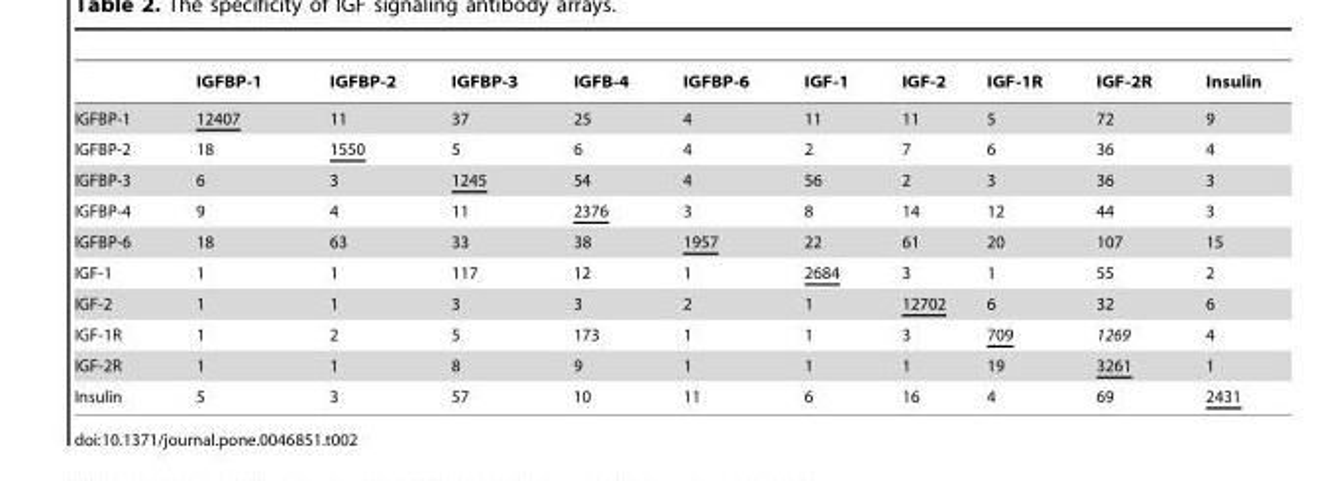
<table><thead><tr><td></td><td>IGFBP-1</td><td>IGFBP-2</td><td>IGFBP-3</td><td>IGFB-4</td><td>IGFBP-6</td><td>IGF-1</td><td>IGF-2</td><td>IGF-1R</td><td>IGF-2R</td><td>Insulin</td></tr></thead><tbody><tr><td>IGFBP-1</td><td>12407</td><td>11</td><td>37</td><td>25</td><td>4</td><td>11</td><td>11</td><td>5</td><td>72</td><td>9</td></tr><tr><td>IGFBP-2</td><td>18</td><td>1550</td><td>5</td><td>6</td><td>4</td><td>2</td><td>7</td><td>6</td><td>36</td><td>4</td></tr><tr><td>IGFBP-3</td><td>6</td><td>3</td><td>1245</td><td>54</td><td>4</td><td>56</td><td>2</td><td>3</td><td>36</td><td>3</td></tr><tr><td>IGFBP-4</td><td>9</td><td>4</td><td>11</td><td>2376</td><td>3</td><td>8</td><td>14</td><td>12</td><td>44</td><td>3</td></tr><tr><td>IGFBP-6</td><td>18</td><td>63</td><td>33</td><td>38</td><td>1957</td><td>22</td><td>61</td><td>20</td><td>107</td><td>15</td></tr><tr><td>IGF-1</td><td>1</td><td>1</td><td>117</td><td>12</td><td>1</td><td>2684</td><td>3</td><td>1</td><td>55</td><td>2</td></tr><tr><td>IGF-2</td><td>1</td><td>1</td><td>3</td><td>3</td><td>2</td><td>1</td><td>12702</td><td>6</td><td>32</td><td>6</td></tr><tr><td>IGF-1R</td><td>1</td><td>2</td><td>5</td><td>173</td><td>1</td><td>1</td><td>3</td><td>709</td><td>1269</td><td>4</td></tr><tr><td>IGF-2R</td><td>1</td><td>1</td><td>8</td><td>9</td><td>1</td><td>1</td><td>1</td><td>19</td><td>3261</td><td>1</td></tr><tr><td>Insulin</td><td>5</td><td>3</td><td>57</td><td>10</td><td>11</td><td>6</td><td>16</td><td>4</td><td>69</td><td>2431</td></tr></tbody></table>